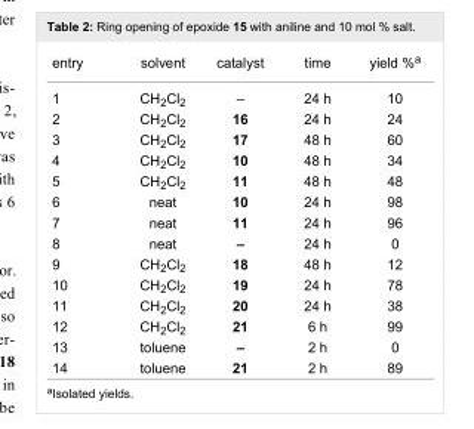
<table><tbody><tr><td>entry</td><td>solvent</td><td>catalyst</td><td>time</td><td>yield %<sup>a</sup></td></tr><tr><td>1</td><td>CH<sub>2</sub>Cl<sub>2</sub></td><td>–</td><td>24 h</td><td>10</td></tr><tr><td>2</td><td>CH<sub>2</sub>Cl<sub>2</sub></td><td>16</td><td>24 h</td><td>24</td></tr><tr><td>3</td><td>CH<sub>2</sub>Cl<sub>2</sub></td><td>17</td><td>48 h</td><td>60</td></tr><tr><td>4</td><td>CH<sub>2</sub>Cl<sub>2</sub></td><td>10</td><td>48 h</td><td>34</td></tr><tr><td>5</td><td>CH<sub>2</sub>Cl<sub>2</sub></td><td>11</td><td>48 h</td><td>48</td></tr><tr><td>6</td><td>neat</td><td>10</td><td>24 h</td><td>98</td></tr><tr><td>7</td><td>neat</td><td>11</td><td>24 h</td><td>96</td></tr><tr><td>8</td><td>neat</td><td>–</td><td>24 h</td><td>0</td></tr><tr><td>9</td><td>CH<sub>2</sub>Cl<sub>2</sub></td><td>18</td><td>48 h</td><td>12</td></tr><tr><td>10</td><td>CH<sub>2</sub>Cl<sub>2</sub></td><td>19</td><td>24 h</td><td>78</td></tr><tr><td>11</td><td>CH<sub>2</sub>Cl<sub>2</sub></td><td>20</td><td>24 h</td><td>38</td></tr><tr><td>12</td><td>CH<sub>2</sub>Cl<sub>2</sub></td><td>21</td><td>6 h</td><td>99</td></tr><tr><td>13</td><td>toluene</td><td>–</td><td>2 h</td><td>0</td></tr><tr><td>14</td><td>toluene</td><td>21</td><td>2 h</td><td>89</td></tr></tbody></table>